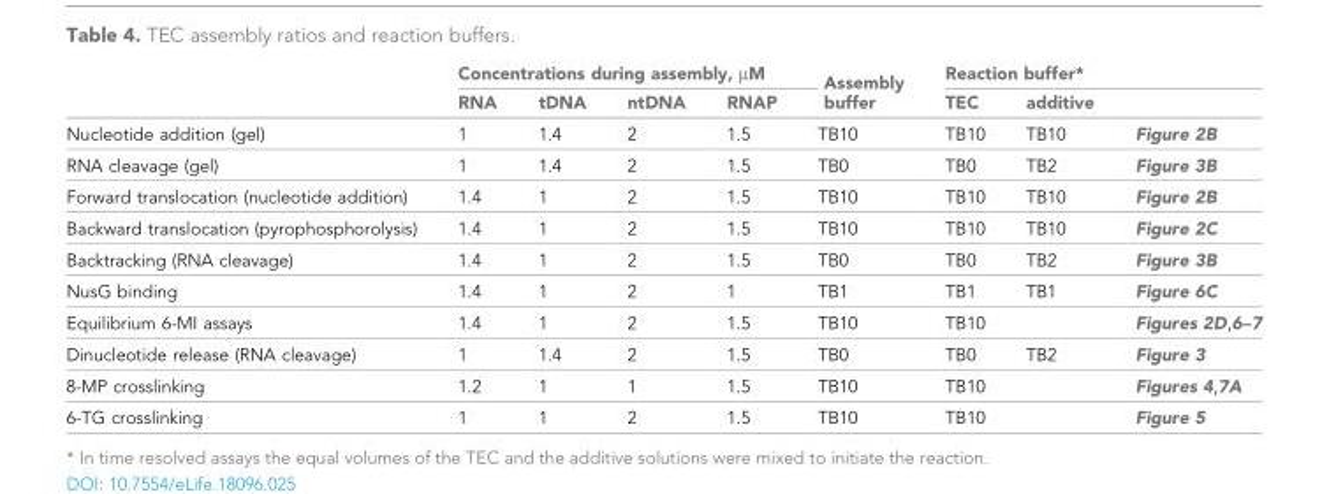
<table><thead><tr><td rowspan="2"></td><td colspan="4">Concentrations during assembly, µM</td><td rowspan="2">Assembly buffer</td><td colspan="2">Reaction buffer*</td><td rowspan="2"></td></tr><tr><td>RNA</td><td>tDNA</td><td>ntDNA</td><td>RNAP</td><td>TEC</td><td>additive</td></tr></thead><tbody><tr><td>Nucleotide addition (gel)</td><td>1</td><td>1.4</td><td>2</td><td>1.5</td><td>TB10</td><td>TB10</td><td>TB10</td><td>Figure 2B</td></tr><tr><td>RNA cleavage (gel)</td><td>1</td><td>1.4</td><td>2</td><td>1.5</td><td>TB0</td><td>TB0</td><td>TB2</td><td>Figure 3B</td></tr><tr><td>Forward translocation (nucleotide addition)</td><td>1.4</td><td>1</td><td>2</td><td>1.5</td><td>TB10</td><td>TB10</td><td>TB10</td><td>Figure 2B</td></tr><tr><td>Backward translocation (pyrophosphorolysis)</td><td>1.4</td><td>1</td><td>2</td><td>1.5</td><td>TB10</td><td>TB10</td><td>TB10</td><td>Figure 2C</td></tr><tr><td>Backtracking (RNA cleavage)</td><td>1.4</td><td>1</td><td>2</td><td>1.5</td><td>TB0</td><td>TB0</td><td>TB2</td><td>Figure 3B</td></tr><tr><td>NusG binding</td><td>1.4</td><td>1</td><td>2</td><td>1</td><td>TB1</td><td>TB1</td><td>TB1</td><td>Figure 6C</td></tr><tr><td>Equilibrium 6-MI assays</td><td>1.4</td><td>1</td><td>2</td><td>1.5</td><td>TB10</td><td colspan="2">TB10</td><td>Figures 2D,6–7</td></tr><tr><td>Dinucleotide release (RNA cleavage)</td><td>1</td><td>1.4</td><td>2</td><td>1.5</td><td>TB0</td><td>TB0</td><td>TB2</td><td>Figure 3</td></tr><tr><td>8-MP crosslinking</td><td>1.2</td><td>1</td><td>1</td><td>1.5</td><td>TB10</td><td colspan="2">TB10</td><td>Figures 4,7A</td></tr><tr><td>6-TG crosslinking</td><td>1</td><td>1</td><td>2</td><td>1.5</td><td>TB10</td><td colspan="2">TB10</td><td>Figure 5</td></tr></tbody></table>